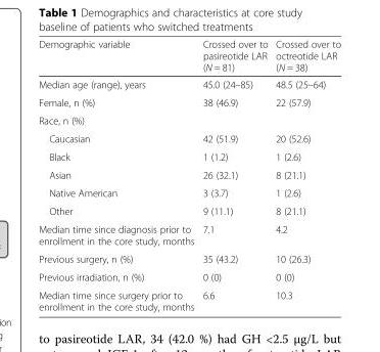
<table><thead><tr><td>Demographic variable</td><td>Crossed over to pasireotide LAR (N = 81)</td><td>Crossed over to octreotide LAR (N = 38)</td></tr></thead><tbody><tr><td>Median age (range), years</td><td>45.0 (24–85)</td><td>48.5 (25–64)</td></tr><tr><td>Female, n (%)</td><td>38 (46.9)</td><td>22 (57.9)</td></tr><tr><td colspan="3">Race, n (%)</td></tr><tr><td>Caucasian</td><td>42 (51.9)</td><td>20 (52.6)</td></tr><tr><td>Black</td><td>1 (1.2)</td><td>1 (2.6)</td></tr><tr><td>Asian</td><td>26 (32.1)</td><td>8 (21.1)</td></tr><tr><td>Native American</td><td>3 (3.7)</td><td>1 (2.6)</td></tr><tr><td>Other</td><td>9 (11.1)</td><td>8 (21.1)</td></tr><tr><td>Median time since diagnosis prior to enrollment in the core study, months</td><td>7.1</td><td>4.2</td></tr><tr><td>Previous surgery, n (%)</td><td>35 (43.2)</td><td>10 (26.3)</td></tr><tr><td>Previous irradiation, n (%)</td><td>0 (0)</td><td>0 (0)</td></tr><tr><td>Median time since surgery prior to enrollment in the core study, months</td><td>6.6</td><td>10.3</td></tr></tbody></table>